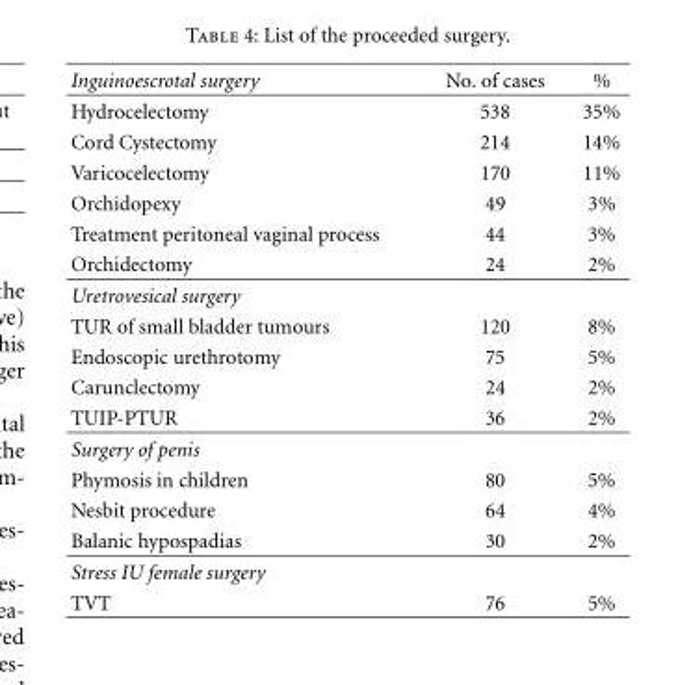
<table><thead><tr><td>Inguinoescrotal surgery</td><td>No. of cases</td><td>%</td></tr></thead><tbody><tr><td>Hydrocelectomy</td><td>538</td><td>35%</td></tr><tr><td>Cord Cystectomy</td><td>214</td><td>14%</td></tr><tr><td>Varicocelectomy</td><td>170</td><td>11%</td></tr><tr><td>Orchidopexy</td><td>49</td><td>3%</td></tr><tr><td>Treatment peritoneal vaginal process</td><td>44</td><td>3%</td></tr><tr><td>Orchidectomy</td><td>24</td><td>2%</td></tr><tr><td colspan="3">Uretrovesical surgery</td></tr><tr><td>TUR of small bladder tumours</td><td>120</td><td>8%</td></tr><tr><td>Endoscopic urethrotomy</td><td>75</td><td>5%</td></tr><tr><td>Carunclectomy</td><td>24</td><td>2%</td></tr><tr><td>TUIP-PTUR</td><td>36</td><td>2%</td></tr><tr><td colspan="3">Surgery of penis</td></tr><tr><td>Phymosis in children</td><td>80</td><td>5%</td></tr><tr><td>Nesbit procedure</td><td>64</td><td>4%</td></tr><tr><td>Balanic hypospadias</td><td>30</td><td>2%</td></tr><tr><td colspan="3">Stress IU female surgery</td></tr><tr><td>TVT</td><td>76</td><td>5%</td></tr></tbody></table>